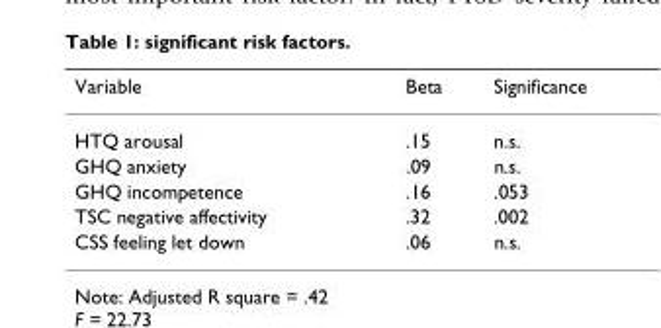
<table><thead><tr><td>Variable</td><td>Beta</td><td>Significance</td></tr></thead><tbody><tr><td>HTQ arousal</td><td>.15</td><td>n.s.</td></tr><tr><td>GHQ anxiety</td><td>.09</td><td>n.s.</td></tr><tr><td>GHQ incompetence</td><td>.16</td><td>.053</td></tr><tr><td>TSC negative affectivity</td><td>.32</td><td>.002</td></tr><tr><td>CSS feeling let down</td><td>.06</td><td>n.s.</td></tr></tbody></table>